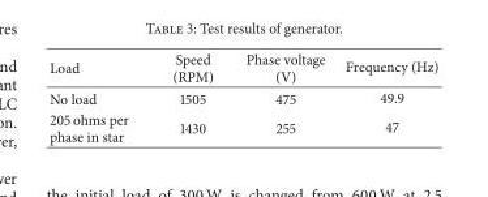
<table><thead><tr><td>Load</td><td>Speed (RPM)</td><td>Phase voltage (V)</td><td>Frequency (Hz)</td></tr></thead><tbody><tr><td>No load</td><td>1505</td><td>475</td><td>49.9</td></tr><tr><td>205 ohms per phase in star</td><td>1430</td><td>255</td><td>47</td></tr></tbody></table>